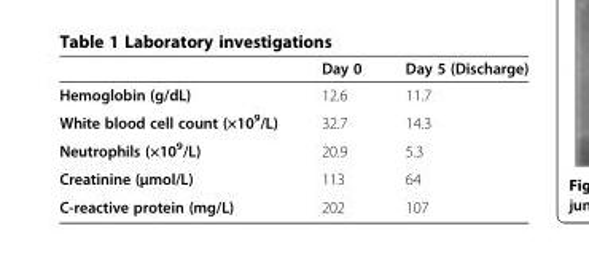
<table><thead><tr><td></td><td>Day 0</td><td>Day 5 (Discharge)</td></tr></thead><tbody><tr><td>Hemoglobin (g/dL)</td><td>12.6</td><td>11.7</td></tr><tr><td>White blood cell count (×10<sup>9</sup>/L)</td><td>32.7</td><td>14.3</td></tr><tr><td>Neutrophils (×10<sup>9</sup>/L)</td><td>20.9</td><td>5.3</td></tr><tr><td>Creatinine (μmol/L)</td><td>113</td><td>64</td></tr><tr><td>C-reactive protein (mg/L)</td><td>202</td><td>107</td></tr></tbody></table>